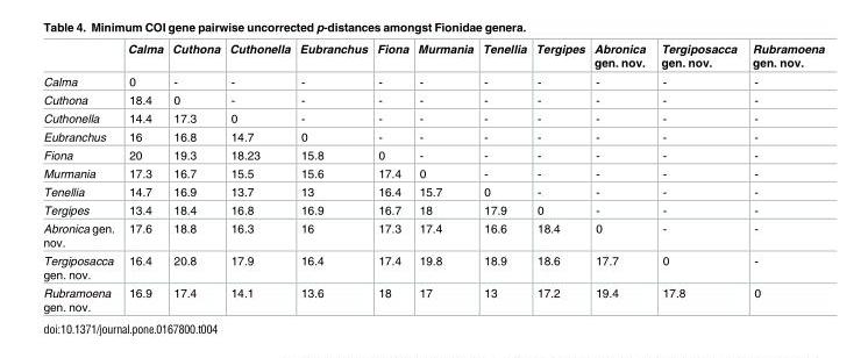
<table><thead><tr><td></td><td>Calma</td><td>Cuthona</td><td>Cuthonella</td><td>Eubranchus</td><td>Fiona</td><td>Murmania</td><td>Tenellia</td><td>Tergipes</td><td>Abronica gen. nov.</td><td>Tergiposacca gen. nov.</td><td>Rubramoena gen. nov.</td></tr></thead><tbody><tr><td>Calma</td><td>0</td><td>-</td><td>-</td><td>-</td><td>-</td><td>-</td><td>-</td><td>-</td><td>-</td><td>-</td><td>-</td></tr><tr><td>Cuthona</td><td>18.4</td><td>0</td><td>-</td><td>-</td><td>-</td><td>-</td><td>-</td><td>-</td><td>-</td><td>-</td><td>-</td></tr><tr><td>Cuthonella</td><td>14.4</td><td>17.3</td><td>0</td><td>-</td><td>-</td><td>-</td><td>-</td><td>-</td><td>-</td><td>-</td><td>-</td></tr><tr><td>Eubranchus</td><td>16</td><td>16.8</td><td>14.7</td><td>0</td><td>-</td><td>-</td><td>-</td><td>-</td><td>-</td><td>-</td><td>-</td></tr><tr><td>Fiona</td><td>20</td><td>19.3</td><td>18.23</td><td>15.8</td><td>0</td><td>-</td><td>-</td><td>-</td><td>-</td><td>-</td><td>-</td></tr><tr><td>Murmania</td><td>17.3</td><td>16.7</td><td>15.5</td><td>15.6</td><td>17.4</td><td>0</td><td>-</td><td>-</td><td>-</td><td>-</td><td>-</td></tr><tr><td>Tenellia</td><td>14.7</td><td>16.9</td><td>13.7</td><td>13</td><td>16.4</td><td>15.7</td><td>0</td><td>-</td><td>-</td><td>-</td><td>-</td></tr><tr><td>Tergipes</td><td>13.4</td><td>18.4</td><td>16.8</td><td>16.9</td><td>16.7</td><td>18</td><td>17.9</td><td>0</td><td>-</td><td>-</td><td>-</td></tr><tr><td>Abronica gen. nov.</td><td>17.6</td><td>18.8</td><td>16.3</td><td>16</td><td>17.3</td><td>17.4</td><td>16.6</td><td>18.4</td><td>0</td><td>-</td><td>-</td></tr><tr><td>Tergiposacca gen. nov.</td><td>16.4</td><td>20.8</td><td>17.9</td><td>16.4</td><td>17.4</td><td>19.8</td><td>18.9</td><td>18.6</td><td>17.7</td><td>0</td><td>-</td></tr><tr><td>Rubramoena gen. nov.</td><td>16.9</td><td>17.4</td><td>14.1</td><td>13.6</td><td>18</td><td>17</td><td>13</td><td>17.2</td><td>19.4</td><td>17.8</td><td>0</td></tr></tbody></table>